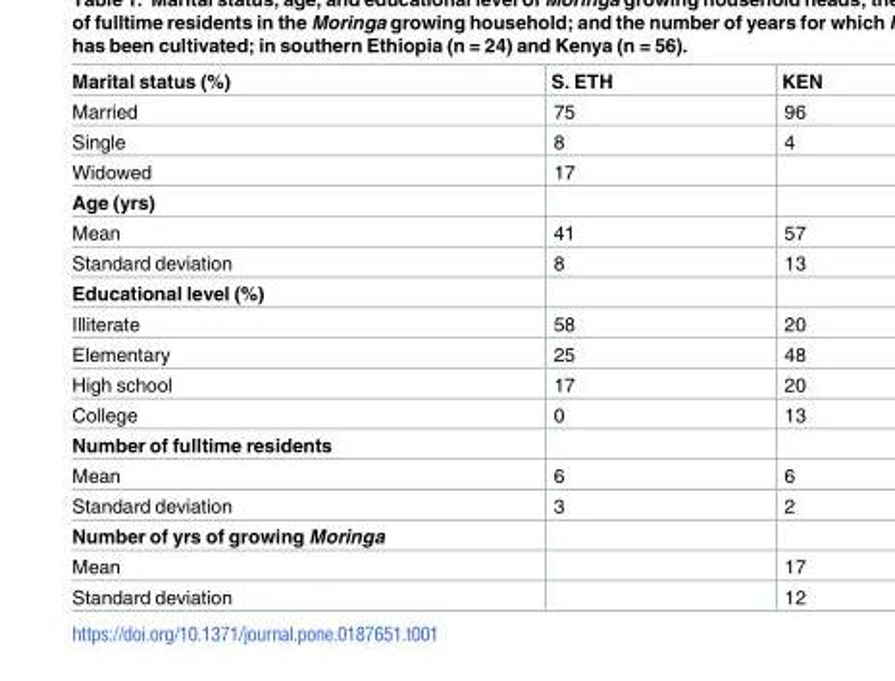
<table><thead><tr><td>Marital status (%)</td><td>S. ETH</td><td>KEN</td></tr></thead><tbody><tr><td>Married</td><td>75</td><td>96</td></tr><tr><td>Single</td><td>8</td><td>4</td></tr><tr><td>Widowed</td><td>17</td><td></td></tr><tr><td colspan="3">Age (yrs)</td></tr><tr><td>Mean</td><td>41</td><td>57</td></tr><tr><td>Standard deviation</td><td>8</td><td>13</td></tr><tr><td colspan="3">Educational level (%)</td></tr><tr><td>Illiterate</td><td>58</td><td>20</td></tr><tr><td>Elementary</td><td>25</td><td>48</td></tr><tr><td>High school</td><td>17</td><td>20</td></tr><tr><td>College</td><td>0</td><td>13</td></tr><tr><td colspan="3">Number of fulltime residents</td></tr><tr><td>Mean</td><td>6</td><td>6</td></tr><tr><td>Standard deviation</td><td>3</td><td>2</td></tr><tr><td colspan="3">Number of yrs of growing Moringa</td></tr><tr><td>Mean</td><td></td><td>17</td></tr><tr><td>Standard deviation</td><td></td><td>12</td></tr></tbody></table>